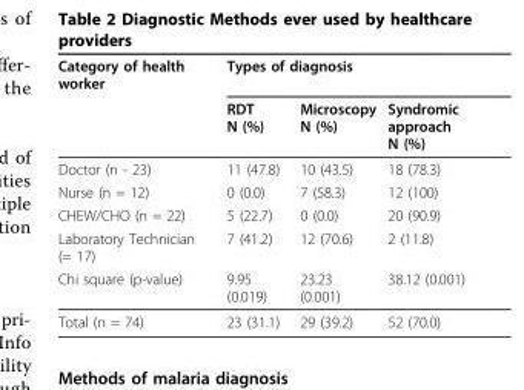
<table><thead><tr><td rowspan="2">Category of health worker</td><td colspan="3">Types of diagnosis</td></tr><tr><td>RDT N (%)</td><td>Microscopy N (%)</td><td>Syndromic approach N (%)</td></tr></thead><tbody><tr><td>Doctor (n - 23)</td><td>11 (47.8)</td><td>10 (43.5)</td><td>18 (78.3)</td></tr><tr><td>Nurse (n = 12)</td><td>0 (0.0)</td><td>7 (58.3)</td><td>12 (100)</td></tr><tr><td>CHEW/CHO (n = 22)</td><td>5 (22.7)</td><td>0 (0.0)</td><td>20 (90.9)</td></tr><tr><td>Laboratory Technician (= 17)</td><td>7 (41.2)</td><td>12 (70.6)</td><td>2 (11.8)</td></tr><tr><td>Chi square (p-value)</td><td>9.95 (0.019)</td><td>23.23 (0.001)</td><td>38.12 (0.001)</td></tr><tr><td>Total (n = 74)</td><td>23 (31.1)</td><td>29 (39.2)</td><td>52 (70.0)</td></tr></tbody></table>